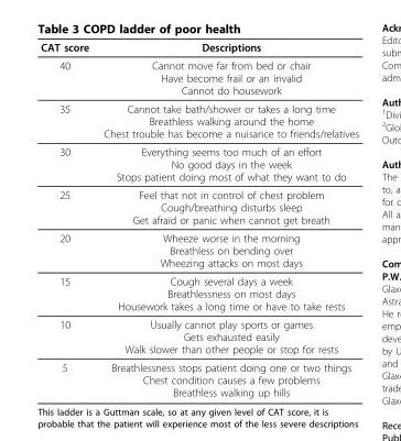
<table><thead><tr><td>CAT score</td><td>Descriptions</td></tr></thead><tbody><tr><td>40</td><td>Cannot move far from bed or chair Have become frail or an invalid Cannot do housework</td></tr><tr><td>35</td><td>Cannot take bath/shower or takes a long time Breathless walking around the home Chest trouble has become a nuisance to friends/relatives</td></tr><tr><td>30</td><td>Everything seems too much of an effort No good days in the week Stops patient doing most of what they want to do</td></tr><tr><td>25</td><td>Feel that not in control of chest problem Cough/breathing disturbs sleep Get afraid or panic when cannot get breath</td></tr><tr><td>20</td><td>Wheeze worse in the morning Breathless on bending over Wheezing attacks on most days</td></tr><tr><td>15</td><td>Cough several days a week Breathlessness on most days Housework takes a long time or have to take rests</td></tr><tr><td>10</td><td>Usually cannot play sports or games Gets exhausted easily Walk slower than other people or stop for rests</td></tr><tr><td>5</td><td>Breathlessness stops patient doing one or two things Chest condition causes a few problems Breathless walking up hills</td></tr></tbody></table>